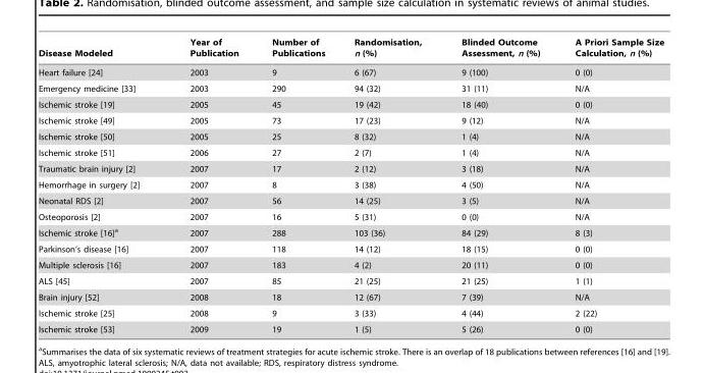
<table><thead><tr><td>Disease Modeled</td><td>Year of Publication</td><td>Number of Publications</td><td>Randomisation, n (%)</td><td>Blinded Outcome Assessment, n (%)</td><td>A Priori Sample Size Calculation, n (%)</td></tr></thead><tbody><tr><td>Heart failure [24]</td><td>2003</td><td>9</td><td>6 (67)</td><td>9 (100)</td><td>0 (0)</td></tr><tr><td>Emergency medicine [33]</td><td>2003</td><td>290</td><td>94 (32)</td><td>31 (11)</td><td>N/A</td></tr><tr><td>Ischemic stroke [19]</td><td>2005</td><td>45</td><td>19 (42)</td><td>18 (40)</td><td>0 (0)</td></tr><tr><td>Ischemic stroke [49]</td><td>2005</td><td>73</td><td>17 (23)</td><td>9 (12)</td><td>N/A</td></tr><tr><td>Ischemic stroke [50]</td><td>2005</td><td>25</td><td>8 (32)</td><td>1 (4)</td><td>N/A</td></tr><tr><td>Ischemic stroke [51]</td><td>2006</td><td>27</td><td>2 (7)</td><td>1 (4)</td><td>N/A</td></tr><tr><td>Traumatic brain injury [2]</td><td>2007</td><td>17</td><td>2 (12)</td><td>3 (18)</td><td>N/A</td></tr><tr><td>Hemorrhage in surgery [2]</td><td>2007</td><td>8</td><td>3 (38)</td><td>4 (50)</td><td>N/A</td></tr><tr><td>Neonatal RDS [2]</td><td>2007</td><td>56</td><td>14 (25)</td><td>3 (5)</td><td>N/A</td></tr><tr><td>Osteoporosis [2]</td><td>2007</td><td>16</td><td>5 (31)</td><td>0 (0)</td><td>N/A</td></tr><tr><td>Ischemic stroke [16]a</td><td>2007</td><td>288</td><td>103 (36)</td><td>84 (29)</td><td>8 (3)</td></tr><tr><td>Parkinson’s disease [16]</td><td>2007</td><td>118</td><td>14 (12)</td><td>18 (15)</td><td>0 (0)</td></tr><tr><td>Multiple sclerosis [16]</td><td>2007</td><td>183</td><td>4 (2)</td><td>20 (11)</td><td>0 (0)</td></tr><tr><td>ALS [45]</td><td>2007</td><td>85</td><td>21 (25)</td><td>21 (25)</td><td>1 (1)</td></tr><tr><td>Brain injury [52]</td><td>2008</td><td>18</td><td>12 (67)</td><td>7 (39)</td><td>N/A</td></tr><tr><td>Ischemic stroke [25]</td><td>2008</td><td>9</td><td>3 (33)</td><td>4 (44)</td><td>2 (22)</td></tr><tr><td>Ischemic stroke [53]</td><td>2009</td><td>19</td><td>1 (5)</td><td>5 (26)</td><td>0 (0)</td></tr></tbody></table>